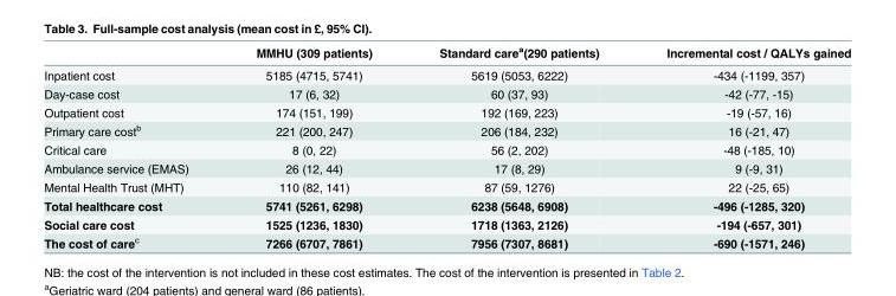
<table><thead><tr><td></td><td>MMHU (309 patients)</td><td>Standard care<sup>a</sup>(290 patients)</td><td>Incremental cost / QALYs gained</td></tr></thead><tbody><tr><td>Inpatient cost</td><td>5185 (4715, 5741)</td><td>5619 (5053, 6222)</td><td>-434 (-1199, 357)</td></tr><tr><td>Day-case cost</td><td>17 (6, 32)</td><td>60 (37, 93)</td><td>-42 (-77, -15)</td></tr><tr><td>Outpatient cost</td><td>174 (151, 199)</td><td>192 (169, 223)</td><td>-19 (-57, 16)</td></tr><tr><td>Primary care cost<sup>b</sup></td><td>221 (200, 247)</td><td>206 (184, 232)</td><td>16 (-21, 47)</td></tr><tr><td>Critical care</td><td>8 (0, 22)</td><td>56 (2, 202)</td><td>-48 (-185, 10)</td></tr><tr><td>Ambulance service (EMAS)</td><td>26 (12, 44)</td><td>17 (8, 29)</td><td>9 (-9, 31)</td></tr><tr><td>Mental Health Trust (MHT)</td><td>110 (82, 141)</td><td>87 (59, 1276)</td><td>22 (-25, 65)</td></tr><tr><td>Total healthcare cost</td><td>5741 (5261, 6298)</td><td>6238 (5648, 6908)</td><td>-496 (-1285, 320)</td></tr><tr><td>Social care cost</td><td>1525 (1236, 1830)</td><td>1718 (1363, 2126)</td><td>-194 (-657, 301)</td></tr><tr><td>The cost of care<sup>c</sup></td><td>7266 (6707, 7861)</td><td>7956 (7307, 8681)</td><td>-690 (-1571, 246)</td></tr></tbody></table>